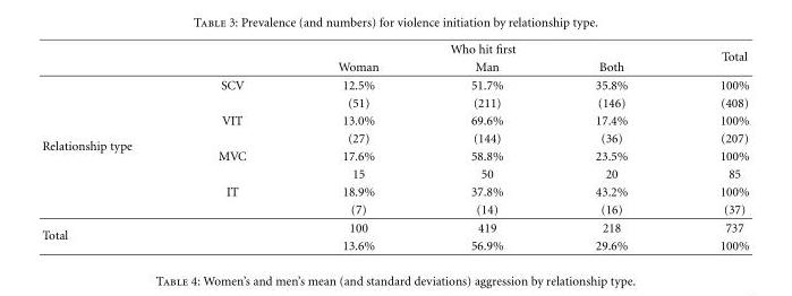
<table><thead><tr><td rowspan="2"></td><td rowspan="2"></td><td colspan="3">Who hit first</td><td rowspan="2">Total</td></tr><tr><td>Woman</td><td>Man</td><td>Both</td></tr></thead><tbody><tr><td rowspan="8">Relationship type</td><td>SCV</td><td>12.5%</td><td>51.7%</td><td>35.8%</td><td>100%</td></tr><tr><td></td><td>(51)</td><td>(211)</td><td>(146)</td><td>(408)</td></tr><tr><td>VIT</td><td>13.0%</td><td>69.6%</td><td>17.4%</td><td>100%</td></tr><tr><td></td><td>(27)</td><td>(144)</td><td>(36)</td><td>(207)</td></tr><tr><td>MVC</td><td>17.6%</td><td>58.8%</td><td>23.5%</td><td>100%</td></tr><tr><td></td><td>15</td><td>50</td><td>20</td><td>85</td></tr><tr><td>IT</td><td>18.9%</td><td>37.8%</td><td>43.2%</td><td>100%</td></tr><tr><td></td><td>(7)</td><td>(14)</td><td>(16)</td><td>(37)</td></tr><tr><td rowspan="2">Total</td><td></td><td>100</td><td>419</td><td>218</td><td>737</td></tr><tr><td></td><td>13.6%</td><td>56.9%</td><td>29.6%</td><td>100%</td></tr></tbody></table>